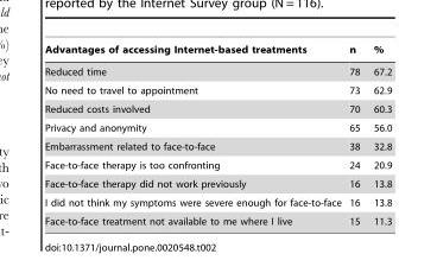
<table><thead><tr><td>Advantages of accessing Internet-based treatments</td><td>n</td><td>%</td></tr></thead><tbody><tr><td>Reduced time</td><td>78</td><td>67.2</td></tr><tr><td>No need to travel to appointment</td><td>73</td><td>62.9</td></tr><tr><td>Reduced costs involved</td><td>70</td><td>60.3</td></tr><tr><td>Privacy and anonymity</td><td>65</td><td>56.0</td></tr><tr><td>Embarrassment related to face-to-face</td><td>38</td><td>32.8</td></tr><tr><td>Face-to-face therapy is too confronting</td><td>24</td><td>20.9</td></tr><tr><td>Face-to-face therapy did not work previously</td><td>16</td><td>13.8</td></tr><tr><td>I did not think my symptoms were severe enough for face-to-face</td><td>16</td><td>13.8</td></tr><tr><td>Face-to-face treatment not available to me where I live</td><td>15</td><td>11.3</td></tr></tbody></table>